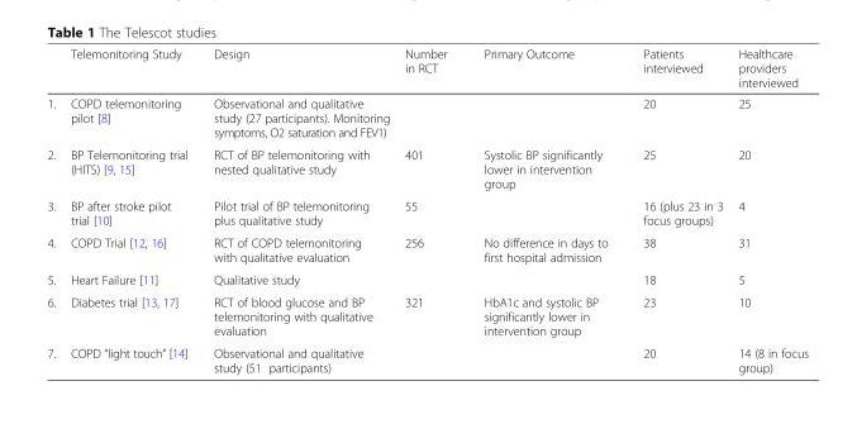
<table><thead><tr><td></td><td>Telemonitoring Study</td><td>Design</td><td>Number in RCT</td><td>Primary Outcome</td><td>Patients interviewed</td><td>Healthcare providers interviewed</td></tr></thead><tbody><tr><td>1.</td><td>COPD telemonitoring pilot [8]</td><td>Observational and qualitative study (27 participants). Monitoring symptoms, O2 saturation and FEV1)</td><td></td><td></td><td>20</td><td>25</td></tr><tr><td>2.</td><td>BP Telemonitoring trial (HITS) [9, 15]</td><td>RCT of BP telemonitoring with nested qualitative study</td><td>401</td><td>Systolic BP significantly lower in intervention group</td><td>25</td><td>20</td></tr><tr><td>3.</td><td>BP after stroke pilot trial [10]</td><td>Pilot trial of BP telemonitoring plus qualitative study</td><td>55</td><td></td><td>16 (plus 23 in 3 focus groups)</td><td>4</td></tr><tr><td>4.</td><td>COPD Trial [12, 16]</td><td>RCT of COPD telemonitoring with qualitative evaluation</td><td>256</td><td>No difference in days to first hospital admission</td><td>38</td><td>31</td></tr><tr><td>5.</td><td>Heart Failure [11]</td><td>Qualitative study</td><td></td><td></td><td>18</td><td>5</td></tr><tr><td>6.</td><td>Diabetes trial [13, 17]</td><td>RCT of blood glucose and BP telemonitoring with qualitative evaluation</td><td>321</td><td>HbA1c and systolic BP significantly lower in intervention group</td><td>23</td><td>10</td></tr><tr><td>7.</td><td>COPD “light touch” [14]</td><td>Observational and qualitative study (51 participants)</td><td></td><td></td><td>20</td><td>14 (8 in focus group)</td></tr></tbody></table>